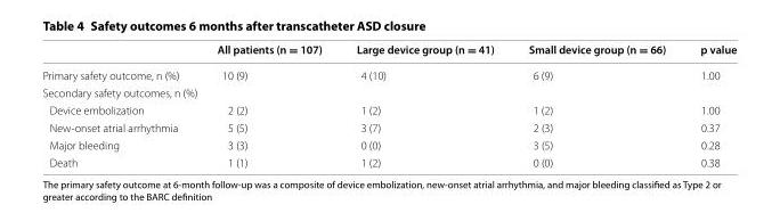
<table><thead><tr><td></td><td>All patients (n = 107)</td><td>Large device group (n = 41)</td><td>Small device group (n = 66)</td><td>p value</td></tr></thead><tbody><tr><td>Primary safety outcome, n (%)</td><td>10 (9)</td><td>4 (10)</td><td>6 (9)</td><td>1.00</td></tr><tr><td colspan="5">Secondary safety outcomes, n (%)</td></tr><tr><td>Device embolization</td><td>2 (2)</td><td>1 (2)</td><td>1 (2)</td><td>1.00</td></tr><tr><td>New-onset atrial arrhythmia</td><td>5 (5)</td><td>3 (7)</td><td>2 (3)</td><td>0.37</td></tr><tr><td>Major bleeding</td><td>3 (3)</td><td>0 (0)</td><td>3 (5)</td><td>0.28</td></tr><tr><td>Death</td><td>1 (1)</td><td>1 (2)</td><td>0 (0)</td><td>0.38</td></tr></tbody></table>